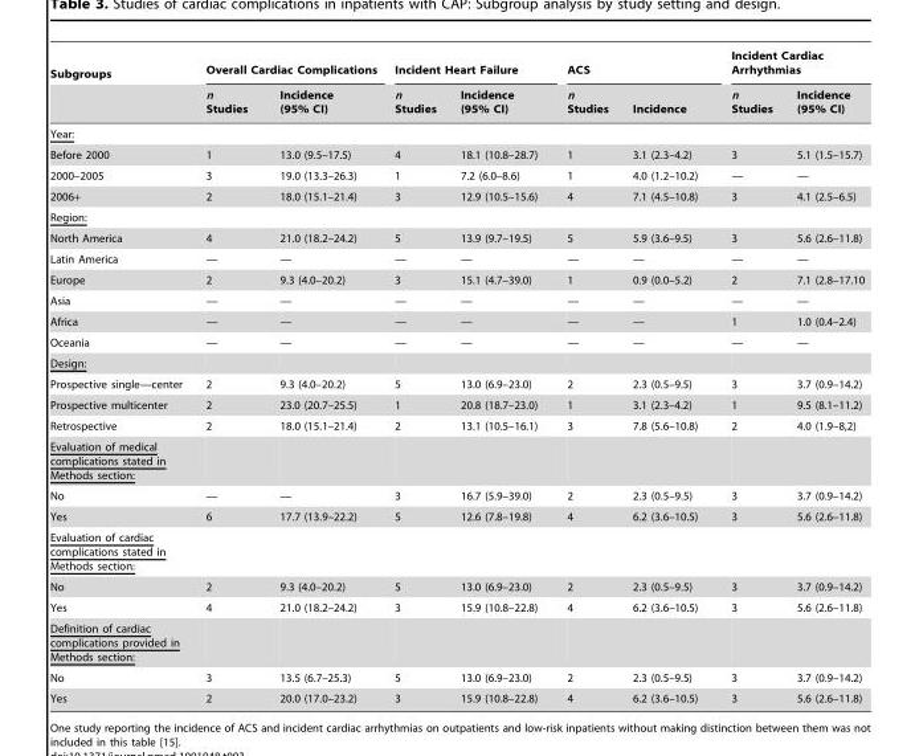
<table><thead><tr><td rowspan="2">Subgroups</td><td colspan="2">Overall Cardiac Complications</td><td colspan="2">Incident Heart Failure</td><td colspan="2">ACS</td><td colspan="2">Incident Cardiac Arrhythmias</td></tr><tr><td>n Studies</td><td>Incidence (95% CI)</td><td>n Studies</td><td>Incidence (95% CI)</td><td>n Studies</td><td>Incidence</td><td>n Studies</td><td>Incidence (95% CI)</td></tr></thead><tbody><tr><td colspan="9">Year:</td></tr><tr><td>Before 2000</td><td>1</td><td>13.0 (9.5–17.5)</td><td>4</td><td>18.1 (10.8–28.7)</td><td>1</td><td>3.1 (2.3–4.2)</td><td>3</td><td>5.1 (1.5–15.7)</td></tr><tr><td>2000–2005</td><td>3</td><td>19.0 (13.3–26.3)</td><td>1</td><td>7.2 (6.0–8.6)</td><td>1</td><td>4.0 (1.2–10.2)</td><td>—</td><td>—</td></tr><tr><td>2006+</td><td>2</td><td>18.0 (15.1–21.4)</td><td>3</td><td>12.9 (10.5–15.6)</td><td>4</td><td>7.1 (4.5–10.8)</td><td>3</td><td>4.1 (2.5–6.5)</td></tr><tr><td colspan="9">Region:</td></tr><tr><td>North America</td><td>4</td><td>21.0 (18.2–24.2)</td><td>5</td><td>13.9 (9.7–19.5)</td><td>5</td><td>5.9 (3.6–9.5)</td><td>3</td><td>5.6 (2.6–11.8)</td></tr><tr><td>Latin America</td><td>—</td><td>—</td><td>—</td><td>—</td><td>—</td><td>—</td><td>—</td><td>—</td></tr><tr><td>Europe</td><td>2</td><td>9.3 (4.0–20.2)</td><td>3</td><td>15.1 (4.7–39.0)</td><td>1</td><td>0.9 (0.0–5.2)</td><td>2</td><td>7.1 (2.8–17.10</td></tr><tr><td>Asia</td><td>—</td><td>—</td><td>—</td><td>—</td><td>—</td><td>—</td><td>—</td><td>—</td></tr><tr><td>Africa</td><td>—</td><td>—</td><td>—</td><td>—</td><td>—</td><td>—</td><td>1</td><td>1.0 (0.4–2.4)</td></tr><tr><td>Oceania</td><td>—</td><td>—</td><td>—</td><td>—</td><td>—</td><td>—</td><td>—</td><td>—</td></tr><tr><td colspan="9">Design:</td></tr><tr><td>Prospective single—center</td><td>2</td><td>9.3 (4.0–20.2)</td><td>5</td><td>13.0 (6.9–23.0)</td><td>2</td><td>2.3 (0.5–9.5)</td><td>3</td><td>3.7 (0.9–14.2)</td></tr><tr><td>Prospective multicenter</td><td>2</td><td>23.0 (20.7–25.5)</td><td>1</td><td>20.8 (18.7–23.0)</td><td>1</td><td>3.1 (2.3–4.2)</td><td>1</td><td>9.5 (8.1–11.2)</td></tr><tr><td>Retrospective</td><td>2</td><td>18.0 (15.1–21.4)</td><td>2</td><td>13.1 (10.5–16.1)</td><td>3</td><td>7.8 (5.6–10.8)</td><td>2</td><td>4.0 (1.9–8,2)</td></tr><tr><td colspan="9">Evaluation of medical complications stated in Methods section:</td></tr><tr><td>No</td><td>—</td><td>—</td><td>3</td><td>16.7 (5.9–39.0)</td><td>2</td><td>2.3 (0.5–9.5)</td><td>3</td><td>3.7 (0.9–14.2)</td></tr><tr><td>Yes</td><td>6</td><td>17.7 (13.9–22.2)</td><td>5</td><td>12.6 (7.8–19.8)</td><td>4</td><td>6.2 (3.6–10.5)</td><td>3</td><td>5.6 (2.6–11.8)</td></tr><tr><td colspan="9">Evaluation of cardiac complications stated in Methods section:</td></tr><tr><td>No</td><td>2</td><td>9.3 (4.0–20.2)</td><td>5</td><td>13.0 (6.9–23.0)</td><td>2</td><td>2.3 (0.5–9.5)</td><td>3</td><td>3.7 (0.9–14.2)</td></tr><tr><td>Yes</td><td>4</td><td>21.0 (18.2–24.2)</td><td>3</td><td>15.9 (10.8–22.8)</td><td>4</td><td>6.2 (3.6–10.5)</td><td>3</td><td>5.6 (2.6–11.8)</td></tr><tr><td colspan="9">Definition of cardiac complications provided in Methods section:</td></tr><tr><td>No</td><td>3</td><td>13.5 (6.7–25.3)</td><td>5</td><td>13.0 (6.9–23.0)</td><td>2</td><td>2.3 (0.5–9.5)</td><td>3</td><td>3.7 (0.9–14.2)</td></tr><tr><td>Yes</td><td>2</td><td>20.0 (17.0–23.2)</td><td>3</td><td>15.9 (10.8–22.8)</td><td>4</td><td>6.2 (3.6–10.5)</td><td>3</td><td>5.6 (2.6–11.8)</td></tr></tbody></table>